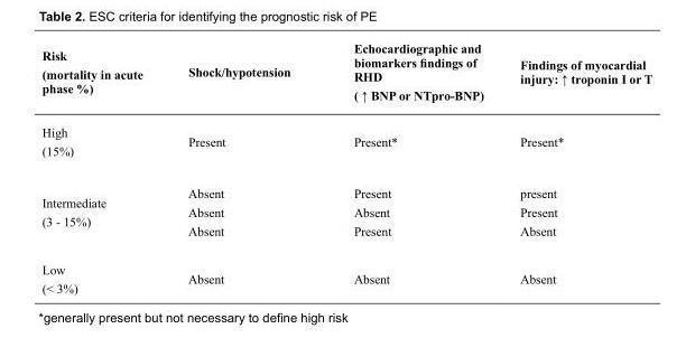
<table><thead><tr><td>Risk (mortality in acute phase %)</td><td>Shock/hypotension</td><td>Echocardiographic and biomarkers findings of RHD ( ↑ BNP or NTpro-BNP)</td><td>Findings of myocardial injury: ↑ troponin I or T</td></tr></thead><tbody><tr><td>High (15%)</td><td>Present</td><td>Present*</td><td>Present*</td></tr><tr><td>Intermediate (3 - 15%)</td><td>Absent Absent Absent</td><td>Present Absent Present</td><td>present Present Absent</td></tr><tr><td>Low (&lt; 3%)</td><td>Absent</td><td>Absent</td><td>Absent</td></tr></tbody></table>